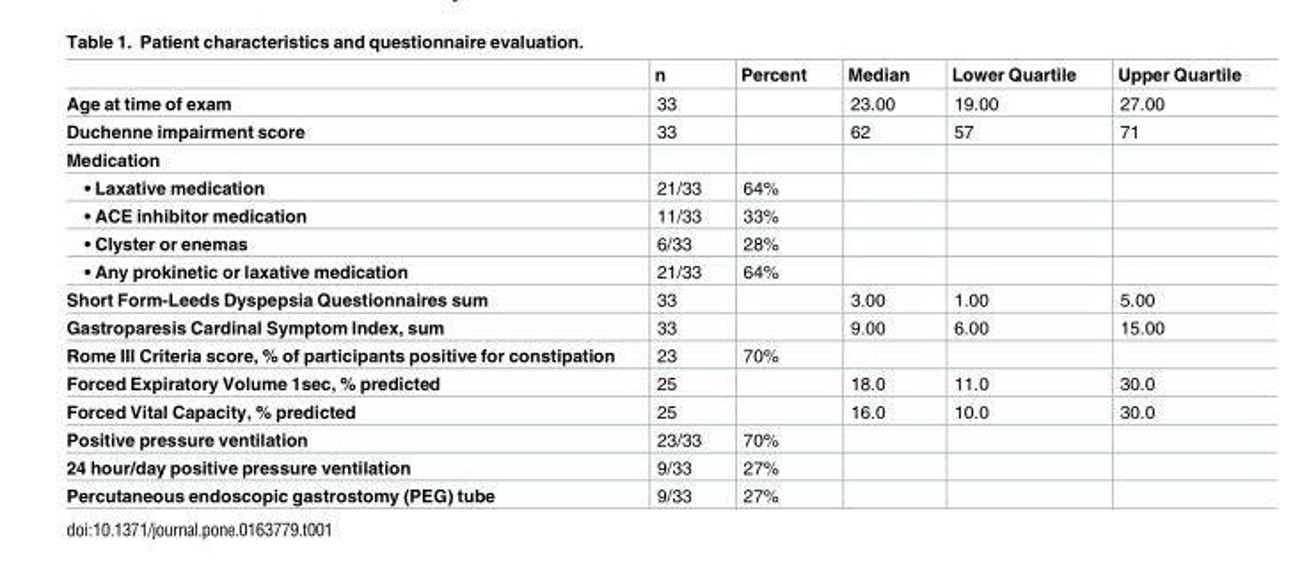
<table><thead><tr><td></td><td>n</td><td>Percent</td><td>Median</td><td>Lower Quartile</td><td>Upper Quartile</td></tr></thead><tbody><tr><td>Age at time of exam</td><td>33</td><td></td><td>23.00</td><td>19.00</td><td>27.00</td></tr><tr><td>Duchenne impairment score</td><td>33</td><td></td><td>62</td><td>57</td><td>71</td></tr><tr><td colspan="6">Medication</td></tr><tr><td>• Laxative medication</td><td>21/33</td><td>64%</td><td></td><td></td><td></td></tr><tr><td>• ACE inhibitor medication</td><td>11/33</td><td>33%</td><td></td><td></td><td></td></tr><tr><td>• Clyster or enemas</td><td>6/33</td><td>28%</td><td></td><td></td><td></td></tr><tr><td>• Any prokinetic or laxative medication</td><td>21/33</td><td>64%</td><td></td><td></td><td></td></tr><tr><td>Short Form-Leeds Dyspepsia Questionnaires sum</td><td>33</td><td></td><td>3.00</td><td>1.00</td><td>5.00</td></tr><tr><td>Gastroparesis Cardinal Symptom Index, sum</td><td>33</td><td></td><td>9.00</td><td>6.00</td><td>15.00</td></tr><tr><td>Rome III Criteria score, % of participants positive for constipation</td><td>23</td><td>70%</td><td></td><td></td><td></td></tr><tr><td>Forced Expiratory Volume 1sec, % predicted</td><td>25</td><td></td><td>18.0</td><td>11.0</td><td>30.0</td></tr><tr><td>Forced Vital Capacity, % predicted</td><td>25</td><td></td><td>16.0</td><td>10.0</td><td>30.0</td></tr><tr><td>Positive pressure ventilation</td><td>23/33</td><td>70%</td><td></td><td></td><td></td></tr><tr><td>24 hour/day positive pressure ventilation</td><td>9/33</td><td>27%</td><td></td><td></td><td></td></tr><tr><td>Percutaneous endoscopic gastrostomy (PEG) tube</td><td>9/33</td><td>27%</td><td></td><td></td><td></td></tr></tbody></table>